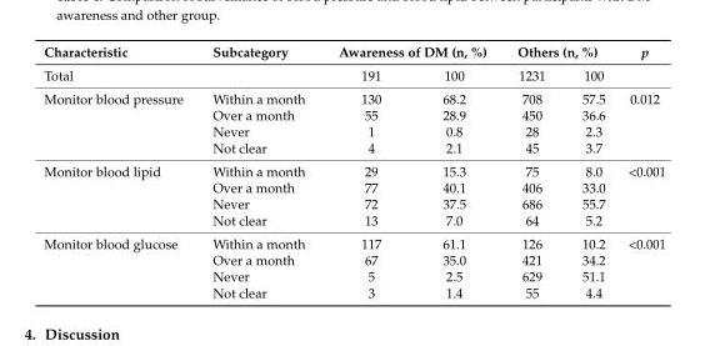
<table><thead><tr><td rowspan="2">Characteristic Total</td><td rowspan="2">Subcategory</td><td colspan="2">Awareness of DM (n, %)</td><td colspan="2">Others (n, %)</td><td rowspan="2">p</td></tr><tr><td>191</td><td>100</td><td>1231</td><td>100</td></tr></thead><tbody><tr><td rowspan="4">Monitor blood pressure</td><td>Within a month</td><td>130</td><td>68.2</td><td>708</td><td>57.5</td><td>0.012</td></tr><tr><td>Over a month</td><td>55</td><td>28.9</td><td>450</td><td>36.6</td><td></td></tr><tr><td>Never</td><td>1</td><td>0.8</td><td>28</td><td>2.3</td><td></td></tr><tr><td>Not clear</td><td>4</td><td>2.1</td><td>45</td><td>3.7</td><td></td></tr><tr><td rowspan="4">Monitor blood lipid</td><td>Within a month</td><td>29</td><td>15.3</td><td>75</td><td>8.0</td><td>&lt;0.001</td></tr><tr><td>Over a month</td><td>77</td><td>40.1</td><td>406</td><td>33.0</td><td></td></tr><tr><td>Never</td><td>72</td><td>37.5</td><td>686</td><td>55.7</td><td></td></tr><tr><td>Not clear</td><td>13</td><td>7.0</td><td>64</td><td>5.2</td><td></td></tr><tr><td rowspan="4">Monitor blood glucose</td><td>Within a month</td><td>117</td><td>61.1</td><td>126</td><td>10.2</td><td>&lt;0.001</td></tr><tr><td>Over a month</td><td>67</td><td>35.0</td><td>421</td><td>34.2</td><td></td></tr><tr><td>Never</td><td>5</td><td>2.5</td><td>629</td><td>51.1</td><td></td></tr><tr><td>Not clear</td><td>3</td><td>1.4</td><td>55</td><td>4.4</td><td></td></tr></tbody></table>